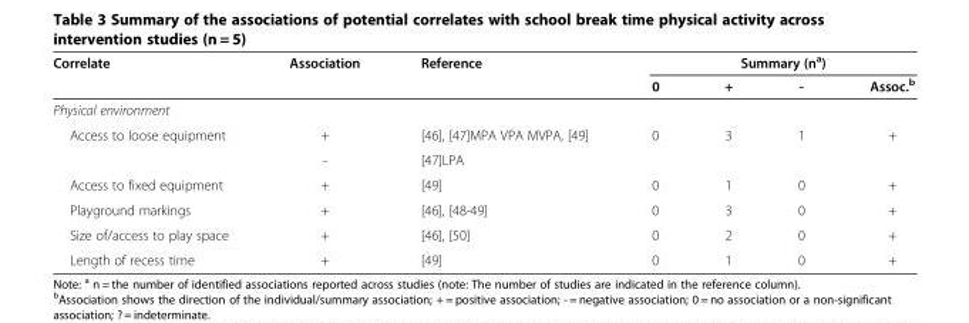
<table><thead><tr><td rowspan="2">Correlate</td><td rowspan="2">Association</td><td rowspan="2">Reference</td><td colspan="4">Summary (n<sup>a</sup>)</td></tr><tr><td>0</td><td>+</td><td>-</td><td>Assoc.<sup>b</sup></td></tr></thead><tbody><tr><td colspan="7">Physical environment</td></tr><tr><td rowspan="2">Access to loose equipment</td><td>+</td><td>[46], [47]MPA VPA MVPA, [49]</td><td>0</td><td>3</td><td>1</td><td>+</td></tr><tr><td>-</td><td>[47]LPA</td><td></td><td></td><td></td><td></td></tr><tr><td>Access to fixed equipment</td><td>+</td><td>[49]</td><td>0</td><td>1</td><td>0</td><td>+</td></tr><tr><td>Playground markings</td><td>+</td><td>[46], [48-49]</td><td>0</td><td>3</td><td>0</td><td>+</td></tr><tr><td>Size of/access to play space</td><td>+</td><td>[46], [50]</td><td>0</td><td>2</td><td>0</td><td>+</td></tr><tr><td>Length of recess time</td><td>+</td><td>[49]</td><td>0</td><td>1</td><td>0</td><td>+</td></tr></tbody></table>